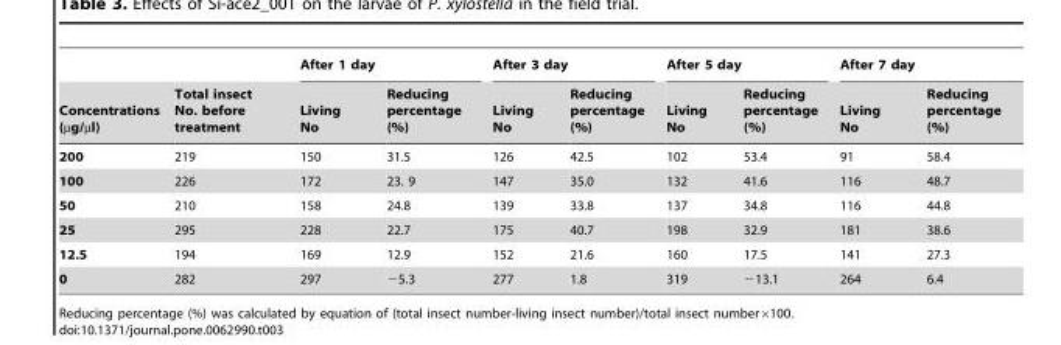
<table><thead><tr><td rowspan="2">Concentrations (µg/µl)</td><td rowspan="2">Total insect No. before treatment</td><td colspan="2">After 1 day</td><td colspan="2">After 3 day</td><td colspan="2">After 5 day</td><td colspan="2">After 7 day</td></tr><tr><td>Living No</td><td>Reducing percentage (%)</td><td>Living No</td><td>Reducing percentage (%)</td><td>Living No</td><td>Reducing percentage (%)</td><td>Living No</td><td>Reducing percentage (%)</td></tr></thead><tbody><tr><td>200</td><td>219</td><td>150</td><td>31.5</td><td>126</td><td>42.5</td><td>102</td><td>53.4</td><td>91</td><td>58.4</td></tr><tr><td>100</td><td>226</td><td>172</td><td>23. 9</td><td>147</td><td>35.0</td><td>132</td><td>41.6</td><td>116</td><td>48.7</td></tr><tr><td>50</td><td>210</td><td>158</td><td>24.8</td><td>139</td><td>33.8</td><td>137</td><td>34.8</td><td>116</td><td>44.8</td></tr><tr><td>25</td><td>295</td><td>228</td><td>22.7</td><td>175</td><td>40.7</td><td>198</td><td>32.9</td><td>181</td><td>38.6</td></tr><tr><td>12.5</td><td>194</td><td>169</td><td>12.9</td><td>152</td><td>21.6</td><td>160</td><td>17.5</td><td>141</td><td>27.3</td></tr><tr><td>0</td><td>282</td><td>297</td><td>−5.3</td><td>277</td><td>1.8</td><td>319</td><td>−13.1</td><td>264</td><td>6.4</td></tr></tbody></table>